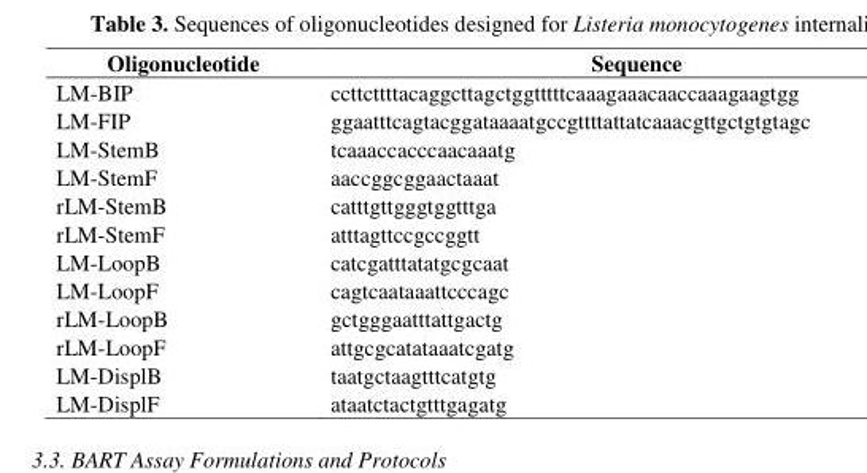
<table><thead><tr><td>Oligonucleotide</td><td>Sequence</td></tr></thead><tbody><tr><td>LM-BIP</td><td>ccttcttttacaggcttagctggtttttcaaagaaacaaccaaagaagtgg</td></tr><tr><td>LM-FIP</td><td>ggaatttcagtacggataaaatgccgttttattatcaaacgttgctgtgtagc</td></tr><tr><td>LM-StemB</td><td>tcaaaccacccaacaaatg</td></tr><tr><td>LM-StemF</td><td>aaccggcggaactaaat</td></tr><tr><td>rLM-StemB</td><td>catttgttgggtggtttga</td></tr><tr><td>rLM-StemF</td><td>atttagttccgccggtt</td></tr><tr><td>LM-LoopB</td><td>catcgatttatatgcgcaat</td></tr><tr><td>LM-LoopF</td><td>cagtcaataaattcccagc</td></tr><tr><td>rLM-LoopB</td><td>gctgggaatttattgactg</td></tr><tr><td>rLM-LoopF</td><td>attgcgcatataaatcgatg</td></tr><tr><td>LM-DisplB</td><td>taatgctaagtttcatgtg</td></tr><tr><td>LM-DisplF</td><td>ataatctactgtttgagatg</td></tr></tbody></table>